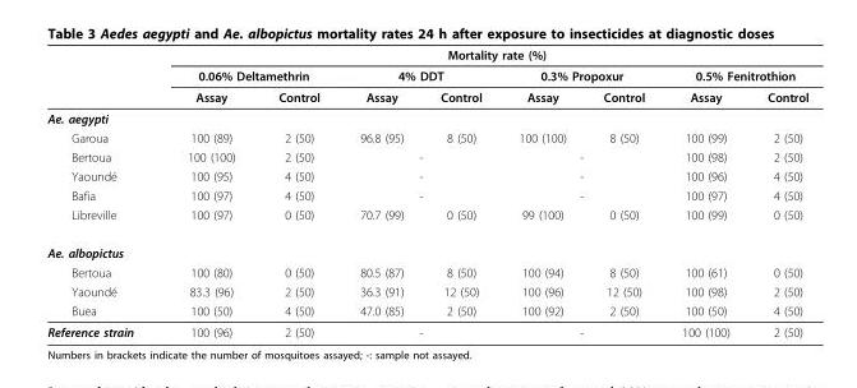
<table><thead><tr><td rowspan="3"></td><td colspan="8">Mortality rate (%)</td></tr><tr><td colspan="2">0.06% Deltamethrin</td><td colspan="2">4% DDT</td><td colspan="2">0.3% Propoxur</td><td colspan="2">0.5% Fenitrothion</td></tr><tr><td>Assay</td><td>Control</td><td>Assay</td><td>Control</td><td>Assay</td><td>Control</td><td>Assay</td><td>Control</td></tr></thead><tbody><tr><td colspan="9">Ae. aegypti</td></tr><tr><td>Garoua</td><td>100 (89)</td><td>2 (50)</td><td>96.8 (95)</td><td>8 (50)</td><td>100 (100)</td><td>8 (50)</td><td>100 (99)</td><td>2 (50)</td></tr><tr><td>Bertoua</td><td>100 (100)</td><td>2 (50)</td><td colspan="2">-</td><td colspan="2">-</td><td>100 (98)</td><td>2 (50)</td></tr><tr><td>Yaoundé</td><td>100 (95)</td><td>4 (50)</td><td colspan="2">-</td><td colspan="2">-</td><td>100 (96)</td><td>4 (50)</td></tr><tr><td>Bafia</td><td>100 (97)</td><td>4 (50)</td><td colspan="2">-</td><td colspan="2">-</td><td>100 (97)</td><td>4 (50)</td></tr><tr><td>Libreville</td><td>100 (97)</td><td>0 (50)</td><td>70.7 (99)</td><td>0 (50)</td><td>99 (100)</td><td>0 (50)</td><td>100 (99)</td><td>0 (50)</td></tr><tr><td colspan="9">Ae. albopictus</td></tr><tr><td>Bertoua</td><td>100 (80)</td><td>0 (50)</td><td>80.5 (87)</td><td>8 (50)</td><td>100 (94)</td><td>8 (50)</td><td>100 (61)</td><td>0 (50)</td></tr><tr><td>Yaoundé</td><td>83.3 (96)</td><td>2 (50)</td><td>36.3 (91)</td><td>12 (50)</td><td>100 (96)</td><td>12 (50)</td><td>100 (98)</td><td>2 (50)</td></tr><tr><td>Buea</td><td>100 (50)</td><td>4 (50)</td><td>47.0 (85)</td><td>2 (50)</td><td>100 (92)</td><td>2 (50)</td><td>100 (50)</td><td>4 (50)</td></tr><tr><td>Reference strain</td><td>100 (96)</td><td>2 (50)</td><td colspan="2">-</td><td colspan="2">-</td><td>100 (100)</td><td>2 (50)</td></tr></tbody></table>